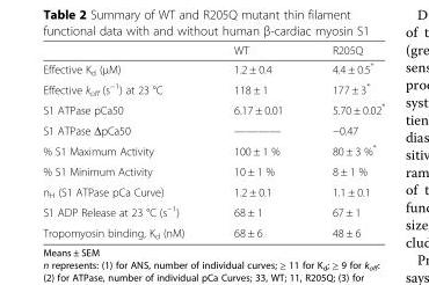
<table><thead><tr><td></td><td>WT</td><td>R205Q</td></tr></thead><tbody><tr><td>Effective K<sub>d</sub> (μM)</td><td>1.2 ± 0.4</td><td>4.4 ± 0.5*</td></tr><tr><td>Effective k<sub>off</sub> (s<sup>−1</sup>) at 23 °C</td><td>118 ± 1</td><td>177 ± 3*</td></tr><tr><td>S1 ATPase pCa50</td><td>6.17 ± 0.01</td><td>5.70 ± 0.02*</td></tr><tr><td>S1 ATPase ΔpCa50</td><td>————</td><td>−0.47</td></tr><tr><td>% S1 Maximum Activity</td><td>100 ± 1 %</td><td>80 ± 3 %*</td></tr><tr><td>% S1 Minimum Activity</td><td>10 ± 1 %</td><td>8 ± 1 %</td></tr><tr><td>n<sub>H</sub> (S1 ATPase pCa Curve)</td><td>1.2 ± 0.1</td><td>1.1 ± 0.1</td></tr><tr><td>S1 ADP Release at 23 °C (s<sup>−1</sup>)</td><td>68 ± 1</td><td>67 ± 1</td></tr><tr><td>Tropomyosin binding, K<sub>d</sub> (nM)</td><td>68 ± 6</td><td>48 ± 6</td></tr></tbody></table>